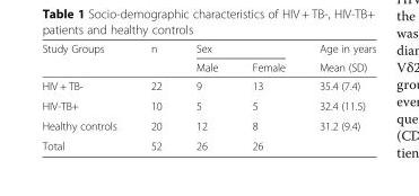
<table><thead><tr><td rowspan="2">Study Groups</td><td rowspan="2">n</td><td colspan="2">Sex</td><td rowspan="2">Age in years Mean (SD)</td></tr><tr><td>Male</td><td>Female</td></tr></thead><tbody><tr><td>HIV + TB-</td><td>22</td><td>9</td><td>13</td><td>35.4 (7.4)</td></tr><tr><td>HIV-TB+</td><td>10</td><td>5</td><td>5</td><td>32.4 (11.5)</td></tr><tr><td>Healthy controls</td><td>20</td><td>12</td><td>8</td><td>31.2 (9.4)</td></tr><tr><td>Total</td><td>52</td><td>26</td><td>26</td><td></td></tr></tbody></table>